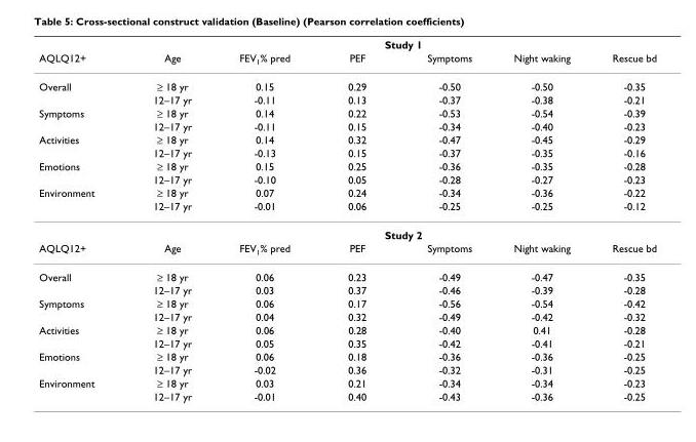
<table><thead><tr><td rowspan="2">AQLQ12+</td><td colspan="6">Study 1</td></tr><tr><td>Age</td><td>FEV<sub>1</sub>% pred</td><td>PEF</td><td>Symptoms</td><td>Night waking</td><td>Rescue bd</td></tr></thead><tbody><tr><td rowspan="2">Overall</td><td>≥ 18 yr</td><td>0.15</td><td>0.29</td><td>-0.50</td><td>-0.50</td><td>-0.35</td></tr><tr><td>12–17 yr</td><td>-0.11</td><td>0.13</td><td>-0.37</td><td>-0.38</td><td>-0.21</td></tr><tr><td rowspan="2">Symptoms</td><td>≥ 18 yr</td><td>0.14</td><td>0.22</td><td>-0.53</td><td>-0.54</td><td>-0.39</td></tr><tr><td>12–17 yr</td><td>-0.11</td><td>0.15</td><td>-0.34</td><td>-0.40</td><td>-0.23</td></tr><tr><td rowspan="2">Activities</td><td>≥ 18 yr</td><td>0.14</td><td>0.32</td><td>-0.47</td><td>-0.45</td><td>-0.29</td></tr><tr><td>12–17 yr</td><td>-0.13</td><td>0.15</td><td>-0.37</td><td>-0.35</td><td>-0.16</td></tr><tr><td rowspan="2">Emotions</td><td>≥ 18 yr</td><td>0.15</td><td>0.25</td><td>-0.36</td><td>-0.35</td><td>-0.28</td></tr><tr><td>12–17 yr</td><td>-0.10</td><td>0.05</td><td>-0.28</td><td>-0.27</td><td>-0.23</td></tr><tr><td rowspan="3">Environment</td><td>≥ 18 yr</td><td>0.07</td><td>0.24</td><td>-0.34</td><td>-0.36</td><td>-0.22</td></tr><tr><td>12–17 yr</td><td>-0.01</td><td>0.06</td><td>-0.25</td><td>-0.25</td><td>-0.12</td></tr><tr><td colspan="6">Study 2</td></tr><tr><td>AQLQ12+</td><td>Age</td><td>FEV<sub>1</sub>% pred</td><td>PEF</td><td>Symptoms</td><td>Night waking</td><td>Rescue bd</td></tr><tr><td rowspan="2">Overall</td><td>≥ 18 yr</td><td>0.06</td><td>0.23</td><td>-0.49</td><td>-0.47</td><td>-0.35</td></tr><tr><td>12–17 yr</td><td>0.03</td><td>0.37</td><td>-0.46</td><td>-0.39</td><td>-0.28</td></tr><tr><td rowspan="2">Symptoms</td><td>≥ 18 yr</td><td>0.06</td><td>0.17</td><td>-0.56</td><td>-0.54</td><td>-0.42</td></tr><tr><td>12–17 yr</td><td>0.04</td><td>0.32</td><td>-0.49</td><td>-0.42</td><td>-0.32</td></tr><tr><td rowspan="2">Activities</td><td>≥ 18 yr</td><td>0.06</td><td>0.28</td><td>-0.40</td><td>0.41</td><td>-0.28</td></tr><tr><td>12–17 yr</td><td>0.05</td><td>0.35</td><td>-0.42</td><td>-0.41</td><td>-0.21</td></tr><tr><td rowspan="2">Emotions</td><td>≥ 18 yr</td><td>0.06</td><td>0.18</td><td>-0.36</td><td>-0.36</td><td>-0.25</td></tr><tr><td>12–17 yr</td><td>-0.02</td><td>0.36</td><td>-0.32</td><td>-0.31</td><td>-0.25</td></tr><tr><td rowspan="2">Environment</td><td>≥ 18 yr</td><td>0.03</td><td>0.21</td><td>-0.34</td><td>-0.34</td><td>-0.23</td></tr><tr><td>12–17 yr</td><td>-0.01</td><td>0.40</td><td>-0.43</td><td>-0.36</td><td>-0.25</td></tr></tbody></table>